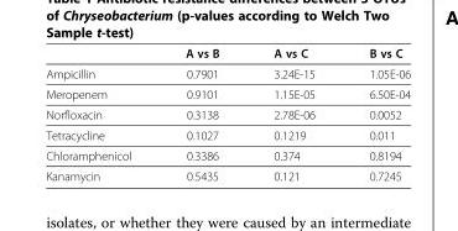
<table><thead><tr><td></td><td>A vs B</td><td>A vs C</td><td>B vs C</td></tr></thead><tbody><tr><td>Ampicillin</td><td>0.7901</td><td>3.24E-15</td><td>1.05E-06</td></tr><tr><td>Meropenem</td><td>0.9101</td><td>1.15E-05</td><td>6.50E-04</td></tr><tr><td>Norfloxacin</td><td>0.3138</td><td>2.78E-06</td><td>0.0052</td></tr><tr><td>Tetracycline</td><td>0.1027</td><td>0.1219</td><td>0.011</td></tr><tr><td>Chloramphenicol</td><td>0.3386</td><td>0.374</td><td>0.8194</td></tr><tr><td>Kanamycin</td><td>0.5435</td><td>0.121</td><td>0.7245</td></tr></tbody></table>